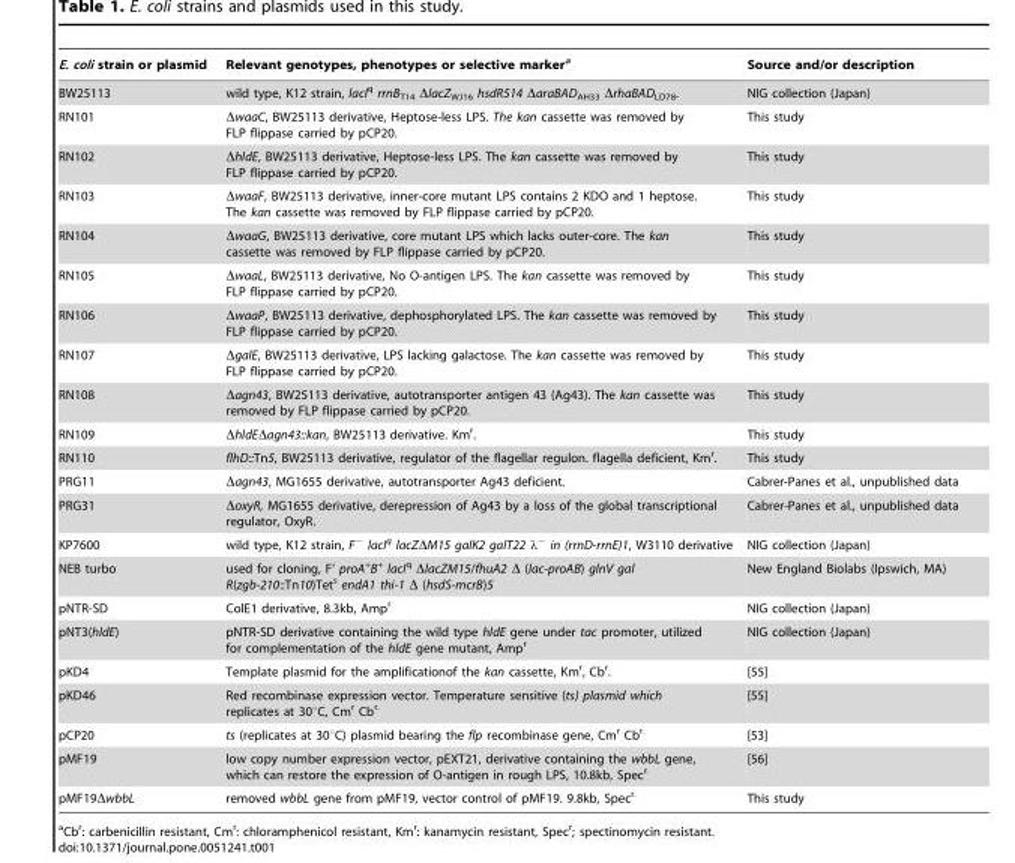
<table><thead><tr><td>E. coli strain or plasmid</td><td>Relevant genotypes, phenotypes or selective marker<sup>a</sup></td><td>Source and/or description</td></tr></thead><tbody><tr><td>BW25113</td><td>wild type, K12 strain, lacI<sup>q</sup> rrnB<sub>T14</sub> ΔlacZ<sub>WJ16</sub> hsdR514 ΔaraBAD<sub>AH33</sub> ΔrhaBAD<sub>LD78</sub>.</td><td>NIG collection (Japan)</td></tr><tr><td>RN101</td><td>ΔwaaC, BW25113 derivative, Heptose-less LPS. The kan cassette was removed by FLP flippase carried by pCP20.</td><td>This study</td></tr><tr><td>RN102</td><td>ΔhldE, BW25113 derivative, Heptose-less LPS. The kan cassette was removed by FLP flippase carried by pCP20.</td><td>This study</td></tr><tr><td>RN103</td><td>ΔwaaF, BW25113 derivative, inner-core mutant LPS contains 2 KDO and 1 heptose. The kan cassette was removed by FLP flippase carried by pCP20.</td><td>This study</td></tr><tr><td>RN104</td><td>ΔwaaG, BW25113 derivative, core mutant LPS which lacks outer-core. The kan cassette was removed by FLP flippase carried by pCP20.</td><td>This study</td></tr><tr><td>RN105</td><td>ΔwaaL, BW25113 derivative, No O-antigen LPS. The kan cassette was removed by FLP flippase carried by pCP20.</td><td>This study</td></tr><tr><td>RN106</td><td>ΔwaaP, BW25113 derivative, dephosphorylated LPS. The kan cassette was removed by FLP flippase carried by pCP20.</td><td>This study</td></tr><tr><td>RN107</td><td>ΔgalE, BW25113 derivative, LPS lacking galactose. The kan cassette was removed by FLP flippase carried by pCP20.</td><td>This study</td></tr><tr><td>RN108</td><td>Δagn43, BW25113 derivative, autotransporter antigen 43 (Ag43). The kan cassette was removed by FLP flippase carried by pCP20.</td><td>This study</td></tr><tr><td>RN109</td><td>ΔhldEΔagn43::kan, BW25113 derivative. Km<sup>r</sup>.</td><td>This study</td></tr><tr><td>RN110</td><td>flhD::Tn5, BW25113 derivative, regulator of the flagellar regulon. flagella deficient, Km<sup>r</sup>.</td><td>This study</td></tr><tr><td>PRG11</td><td>Δagn43, MG1655 derivative, autotransporter Ag43 deficient.</td><td>Cabrer-Panes et al., unpublished data</td></tr><tr><td>PRG31</td><td>ΔoxyR, MG1655 derivative, derepression of Ag43 by a loss of the global transcriptional regulator, OxyR.</td><td>Cabrer-Panes et al., unpublished data</td></tr><tr><td>KP7600</td><td>wild type, K12 strain, F<sup>−</sup> lacI<sup>q</sup> lacZΔM15 galK2 galT22 λ<sup>−</sup> in (rrnD-rrnE)1, W3110 derivative</td><td>NIG collection (Japan)</td></tr><tr><td>NEB turbo</td><td>used for cloning, F’ proA<sup>+</sup>B<sup>+</sup> lacI<sup>q</sup> ΔlacZM15/fhuA2 Δ (lac-proAB) glnV gal R(zgb-210::Tn10)Tet<sup>s</sup> endA1 thi-1 Δ (hsdS-mcrB)5</td><td>New England Biolabs (Ipswich, MA)</td></tr><tr><td>pNTR-SD</td><td>ColE1 derivative, 8.3kb, Amp<sup>r</sup></td><td>NIG collection (Japan)</td></tr><tr><td>pNT3(hldE)</td><td>pNTR-SD derivative containing the wild type hldE gene under tac promoter, utilized for complementation of the hldE gene mutant, Amp<sup>r</sup></td><td>NIG collection (Japan)</td></tr><tr><td>pKD4</td><td>Template plasmid for the amplificationof the kan cassette, Km<sup>r</sup>, Cb<sup>r</sup>.</td><td>[55]</td></tr><tr><td>pKD46</td><td>Red recombinase expression vector. Temperature sensitive (ts) plasmid which replicates at 30°C, Cm<sup>r</sup> Cb<sup>r.</sup></td><td>[55]</td></tr><tr><td>pCP20</td><td>ts (replicates at 30°C) plasmid bearing the flp recombinase gene, Cm<sup>r</sup> Cb<sup>r.</sup></td><td>[53]</td></tr><tr><td>pMF19</td><td>low copy number expression vector, pEXT21, derivative containing the wbbL gene, which can restore the expression of O-antigen in rough LPS, 10.8kb, Spec<sup>r.</sup></td><td>[56]</td></tr><tr><td>pMF19ΔwbbL</td><td>removed wbbL gene from pMF19, vector control of pMF19. 9.8kb, Spec<sup>r.</sup></td><td>This study</td></tr></tbody></table>